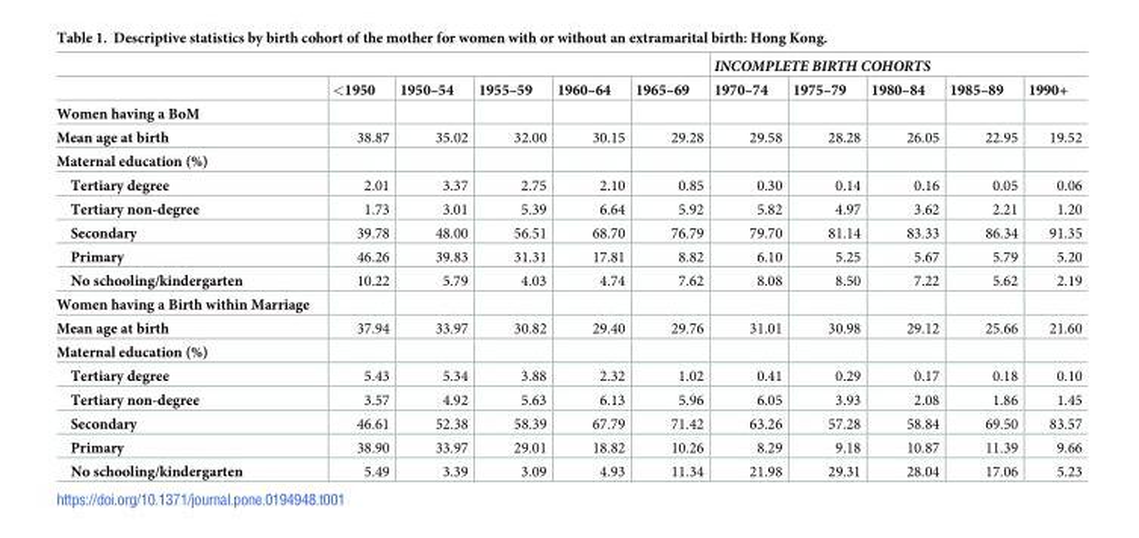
<table><thead><tr><td rowspan="2"></td><td rowspan="2">&lt;1950</td><td rowspan="2">1950–54</td><td rowspan="2">1955–59</td><td rowspan="2">1960–64</td><td rowspan="2">1965–69</td><td colspan="5">INCOMPLETE BIRTH COHORTS</td></tr><tr><td>1970–74</td><td>1975–79</td><td>1980–84</td><td>1985–89</td><td>1990+</td></tr></thead><tbody><tr><td colspan="11">Women having a BoM</td></tr><tr><td>Mean age at birth</td><td>38.87</td><td>35.02</td><td>32.00</td><td>30.15</td><td>29.28</td><td>29.58</td><td>28.28</td><td>26.05</td><td>22.95</td><td>19.52</td></tr><tr><td colspan="11">Maternal education (%)</td></tr><tr><td>Tertiary degree</td><td>2.01</td><td>3.37</td><td>2.75</td><td>2.10</td><td>0.85</td><td>0.30</td><td>0.14</td><td>0.16</td><td>0.05</td><td>0.06</td></tr><tr><td>Tertiary non-degree</td><td>1.73</td><td>3.01</td><td>5.39</td><td>6.64</td><td>5.92</td><td>5.82</td><td>4.97</td><td>3.62</td><td>2.21</td><td>1.20</td></tr><tr><td>Secondary</td><td>39.78</td><td>48.00</td><td>56.51</td><td>68.70</td><td>76.79</td><td>79.70</td><td>81.14</td><td>83.33</td><td>86.34</td><td>91.35</td></tr><tr><td>Primary</td><td>46.26</td><td>39.83</td><td>31.31</td><td>17.81</td><td>8.82</td><td>6.10</td><td>5.25</td><td>5.67</td><td>5.79</td><td>5.20</td></tr><tr><td>No schooling/kindergarten</td><td>10.22</td><td>5.79</td><td>4.03</td><td>4.74</td><td>7.62</td><td>8.08</td><td>8.50</td><td>7.22</td><td>5.62</td><td>2.19</td></tr><tr><td colspan="11">Women having a Birth within Marriage</td></tr><tr><td>Mean age at birth</td><td>37.94</td><td>33.97</td><td>30.82</td><td>29.40</td><td>29.76</td><td>31.01</td><td>30.98</td><td>29.12</td><td>25.66</td><td>21.60</td></tr><tr><td colspan="11">Maternal education (%)</td></tr><tr><td>Tertiary degree</td><td>5.43</td><td>5.34</td><td>3.88</td><td>2.32</td><td>1.02</td><td>0.41</td><td>0.29</td><td>0.17</td><td>0.18</td><td>0.10</td></tr><tr><td>Tertiary non-degree</td><td>3.57</td><td>4.92</td><td>5.63</td><td>6.13</td><td>5.96</td><td>6.05</td><td>3.93</td><td>2.08</td><td>1.86</td><td>1.45</td></tr><tr><td>Secondary</td><td>46.61</td><td>52.38</td><td>58.39</td><td>67.79</td><td>71.42</td><td>63.26</td><td>57.28</td><td>58.84</td><td>69.50</td><td>83.57</td></tr><tr><td>Primary</td><td>38.90</td><td>33.97</td><td>29.01</td><td>18.82</td><td>10.26</td><td>8.29</td><td>9.18</td><td>10.87</td><td>11.39</td><td>9.66</td></tr><tr><td>No schooling/kindergarten</td><td>5.49</td><td>3.39</td><td>3.09</td><td>4.93</td><td>11.34</td><td>21.98</td><td>29.31</td><td>28.04</td><td>17.06</td><td>5.23</td></tr></tbody></table>